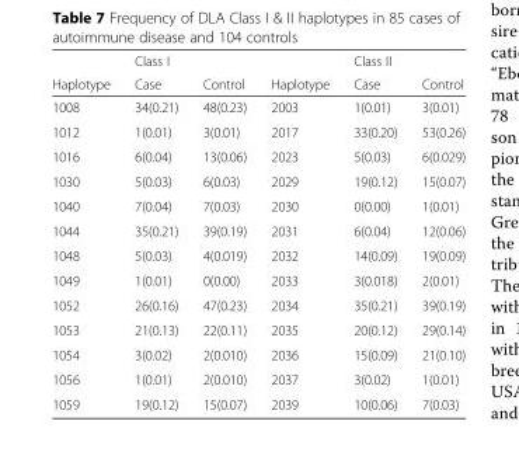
<table><thead><tr><td rowspan="2">Haplotype</td><td rowspan="2">Class I Case</td><td rowspan="2">Control</td><td rowspan="2">Haplotype</td><td rowspan="2">Class II Case</td><td rowspan="2">Control</td></tr><tr></tr></thead><tbody><tr><td>1008</td><td>34(0.21)</td><td>48(0.23)</td><td>2003</td><td>1(0.01)</td><td>3(0.01)</td></tr><tr><td>1012</td><td>1(0.01)</td><td>3(0.01)</td><td>2017</td><td>33(0.20)</td><td>53(0.26)</td></tr><tr><td>1016</td><td>6(0.04)</td><td>13(0.06)</td><td>2023</td><td>5(0.03)</td><td>6(0.029)</td></tr><tr><td>1030</td><td>5(0.03)</td><td>6(0.03)</td><td>2029</td><td>19(0.12)</td><td>15(0.07)</td></tr><tr><td>1040</td><td>7(0.04)</td><td>7(0.03)</td><td>2030</td><td>0(0.00)</td><td>1(0.01)</td></tr><tr><td>1044</td><td>35(0.21)</td><td>39(0.19)</td><td>2031</td><td>6(0.04)</td><td>12(0.06)</td></tr><tr><td>1048</td><td>5(0.03)</td><td>4(0.019)</td><td>2032</td><td>14(0.09)</td><td>19(0.09)</td></tr><tr><td>1049</td><td>1(0.01)</td><td>0(0.00)</td><td>2033</td><td>3(0.018)</td><td>2(0.01)</td></tr><tr><td>1052</td><td>26(0.16)</td><td>47(0.23)</td><td>2034</td><td>35(0.21)</td><td>39(0.19)</td></tr><tr><td>1053</td><td>21(0.13)</td><td>22(0.11)</td><td>2035</td><td>20(0.12)</td><td>29(0.14)</td></tr><tr><td>1054</td><td>3(0.02)</td><td>2(0.010)</td><td>2036</td><td>15(0.09)</td><td>21(0.10)</td></tr><tr><td>1056</td><td>1(0.01)</td><td>2(0.010)</td><td>2037</td><td>3(0.02)</td><td>1(0.01)</td></tr><tr><td>1059</td><td>19(0.12)</td><td>15(0.07)</td><td>2039</td><td>10(0.06)</td><td>7(0.03)</td></tr></tbody></table>